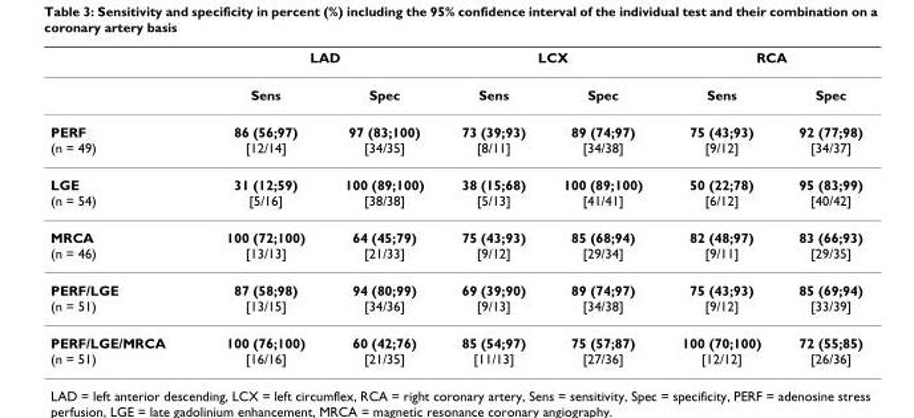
<table><thead><tr><td rowspan="2"></td><td colspan="2">LAD</td><td colspan="2">LCX</td><td colspan="2">RCA</td></tr><tr><td>Sens</td><td>Spec</td><td>Sens</td><td>Spec</td><td>Sens</td><td>Spec</td></tr></thead><tbody><tr><td>PERF (n = 49)</td><td>86 (56;97) [12/14]</td><td>97 (83;100) [34/35]</td><td>73 (39;93) [8/11]</td><td>89 (74;97) [34/38]</td><td>75 (43;93) [9/12]</td><td>92 (77;98) [34/37]</td></tr><tr><td>LGE (n = 54)</td><td>31 (12;59) [5/16]</td><td>100 (89;100) [38/38]</td><td>38 (15;68) [5/13]</td><td>100 (89;100) [41/41]</td><td>50 (22;78) [6/12]</td><td>95 (83;99) [40/42]</td></tr><tr><td>MRCA (n = 46)</td><td>100 (72;100) [13/13]</td><td>64 (45;79) [21/33]</td><td>75 (43;93) [9/12]</td><td>85 (68;94) [29/34]</td><td>82 (48;97) [9/11]</td><td>83 (66;93) [29/35]</td></tr><tr><td>PERF/LGE (n = 51)</td><td>87 (58;98) [13/15]</td><td>94 (80;99) [34/36]</td><td>69 (39;90) [9/13]</td><td>89 (74;97) [34/38]</td><td>75 (43;93) [9/12]</td><td>85 (69;94) [33/39]</td></tr><tr><td>PERF/LGE/MRCA (n = 51)</td><td>100 (76;100) [16/16]</td><td>60 (42;76) [21/35]</td><td>85 (54;97) [11/13]</td><td>75 (57;87) [27/36]</td><td>100 (70;100) [12/12]</td><td>72 (55;85) [26/36]</td></tr></tbody></table>